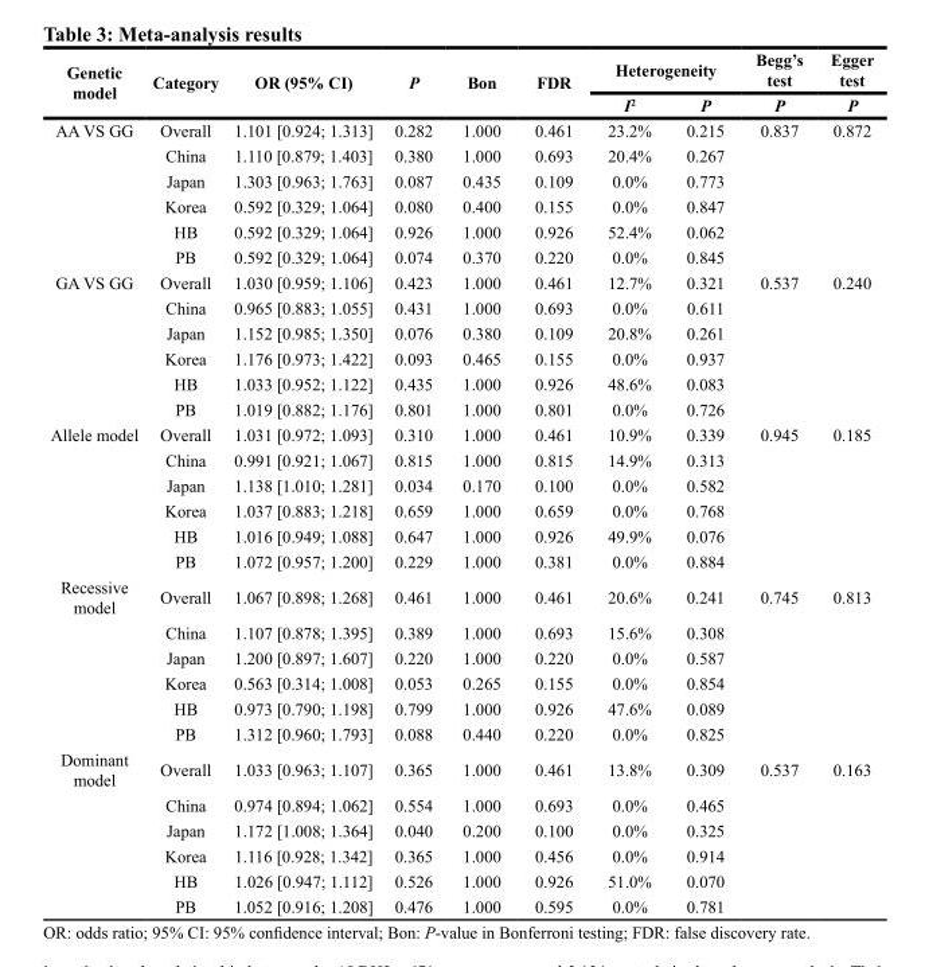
<table><thead><tr><td rowspan="2">Genetic model</td><td rowspan="2">Category</td><td rowspan="2">OR (95% CI)</td><td rowspan="2">P</td><td rowspan="2">Bon</td><td rowspan="2">FDR</td><td colspan="2">Heterogeneity</td><td rowspan="2">Begg’s test P</td><td rowspan="2">Egger test P</td></tr><tr><td>I<sup>2</sup></td><td>P</td></tr></thead><tbody><tr><td rowspan="6">AA VS GG</td><td>Overall</td><td>1.101 [0.924; 1.313]</td><td>0.282</td><td>1.000</td><td>0.461</td><td>23.2%</td><td>0.215</td><td>0.837</td><td>0.872</td></tr><tr><td>China</td><td>1.110 [0.879; 1.403]</td><td>0.380</td><td>1.000</td><td>0.693</td><td>20.4%</td><td>0.267</td><td></td><td></td></tr><tr><td>Japan</td><td>1.303 [0.963; 1.763]</td><td>0.087</td><td>0.435</td><td>0.109</td><td>0.0%</td><td>0.773</td><td></td><td></td></tr><tr><td>Korea</td><td>0.592 [0.329; 1.064]</td><td>0.080</td><td>0.400</td><td>0.155</td><td>0.0%</td><td>0.847</td><td></td><td></td></tr><tr><td>HB</td><td>0.592 [0.329; 1.064]</td><td>0.926</td><td>1.000</td><td>0.926</td><td>52.4%</td><td>0.062</td><td></td><td></td></tr><tr><td>PB</td><td>0.592 [0.329; 1.064]</td><td>0.074</td><td>0.370</td><td>0.220</td><td>0.0%</td><td>0.845</td><td></td><td></td></tr><tr><td rowspan="6">GA VS GG</td><td>Overall</td><td>1.030 [0.959; 1.106]</td><td>0.423</td><td>1.000</td><td>0.461</td><td>12.7%</td><td>0.321</td><td>0.537</td><td>0.240</td></tr><tr><td>China</td><td>0.965 [0.883; 1.055]</td><td>0.431</td><td>1.000</td><td>0.693</td><td>0.0%</td><td>0.611</td><td></td><td></td></tr><tr><td>Japan</td><td>1.152 [0.985; 1.350]</td><td>0.076</td><td>0.380</td><td>0.109</td><td>20.8%</td><td>0.261</td><td></td><td></td></tr><tr><td>Korea</td><td>1.176 [0.973; 1.422]</td><td>0.093</td><td>0.465</td><td>0.155</td><td>0.0%</td><td>0.937</td><td></td><td></td></tr><tr><td>HB</td><td>1.033 [0.952; 1.122]</td><td>0.435</td><td>1.000</td><td>0.926</td><td>48.6%</td><td>0.083</td><td></td><td></td></tr><tr><td>PB</td><td>1.019 [0.882; 1.176]</td><td>0.801</td><td>1.000</td><td>0.801</td><td>0.0%</td><td>0.726</td><td></td><td></td></tr><tr><td rowspan="6">Allele model</td><td>Overall</td><td>1.031 [0.972; 1.093]</td><td>0.310</td><td>1.000</td><td>0.461</td><td>10.9%</td><td>0.339</td><td>0.945</td><td>0.185</td></tr><tr><td>China</td><td>0.991 [0.921; 1.067]</td><td>0.815</td><td>1.000</td><td>0.815</td><td>14.9%</td><td>0.313</td><td></td><td></td></tr><tr><td>Japan</td><td>1.138 [1.010; 1.281]</td><td>0.034</td><td>0.170</td><td>0.100</td><td>0.0%</td><td>0.582</td><td></td><td></td></tr><tr><td>Korea</td><td>1.037 [0.883; 1.218]</td><td>0.659</td><td>1.000</td><td>0.659</td><td>0.0%</td><td>0.768</td><td></td><td></td></tr><tr><td>HB</td><td>1.016 [0.949; 1.088]</td><td>0.647</td><td>1.000</td><td>0.926</td><td>49.9%</td><td>0.076</td><td></td><td></td></tr><tr><td>PB</td><td>1.072 [0.957; 1.200]</td><td>0.229</td><td>1.000</td><td>0.381</td><td>0.0%</td><td>0.884</td><td></td><td></td></tr><tr><td rowspan="6">Recessive model</td><td>Overall</td><td>1.067 [0.898; 1.268]</td><td>0.461</td><td>1.000</td><td>0.461</td><td>20.6%</td><td>0.241</td><td>0.745</td><td>0.813</td></tr><tr><td>China</td><td>1.107 [0.878; 1.395]</td><td>0.389</td><td>1.000</td><td>0.693</td><td>15.6%</td><td>0.308</td><td></td><td></td></tr><tr><td>Japan</td><td>1.200 [0.897; 1.607]</td><td>0.220</td><td>1.000</td><td>0.220</td><td>0.0%</td><td>0.587</td><td></td><td></td></tr><tr><td>Korea</td><td>0.563 [0.314; 1.008]</td><td>0.053</td><td>0.265</td><td>0.155</td><td>0.0%</td><td>0.854</td><td></td><td></td></tr><tr><td>HB</td><td>0.973 [0.790; 1.198]</td><td>0.799</td><td>1.000</td><td>0.926</td><td>47.6%</td><td>0.089</td><td></td><td></td></tr><tr><td>PB</td><td>1.312 [0.960; 1.793]</td><td>0.088</td><td>0.440</td><td>0.220</td><td>0.0%</td><td>0.825</td><td></td><td></td></tr><tr><td rowspan="6">Dominant model</td><td>Overall</td><td>1.033 [0.963; 1.107]</td><td>0.365</td><td>1.000</td><td>0.461</td><td>13.8%</td><td>0.309</td><td>0.537</td><td>0.163</td></tr><tr><td>China</td><td>0.974 [0.894; 1.062]</td><td>0.554</td><td>1.000</td><td>0.693</td><td>0.0%</td><td>0.465</td><td></td><td></td></tr><tr><td>Japan</td><td>1.172 [1.008; 1.364]</td><td>0.040</td><td>0.200</td><td>0.100</td><td>0.0%</td><td>0.325</td><td></td><td></td></tr><tr><td>Korea</td><td>1.116 [0.928; 1.342]</td><td>0.365</td><td>1.000</td><td>0.456</td><td>0.0%</td><td>0.914</td><td></td><td></td></tr><tr><td>HB</td><td>1.026 [0.947; 1.112]</td><td>0.526</td><td>1.000</td><td>0.926</td><td>51.0%</td><td>0.070</td><td></td><td></td></tr><tr><td>PB</td><td>1.052 [0.916; 1.208]</td><td>0.476</td><td>1.000</td><td>0.595</td><td>0.0%</td><td>0.781</td><td></td><td></td></tr></tbody></table>